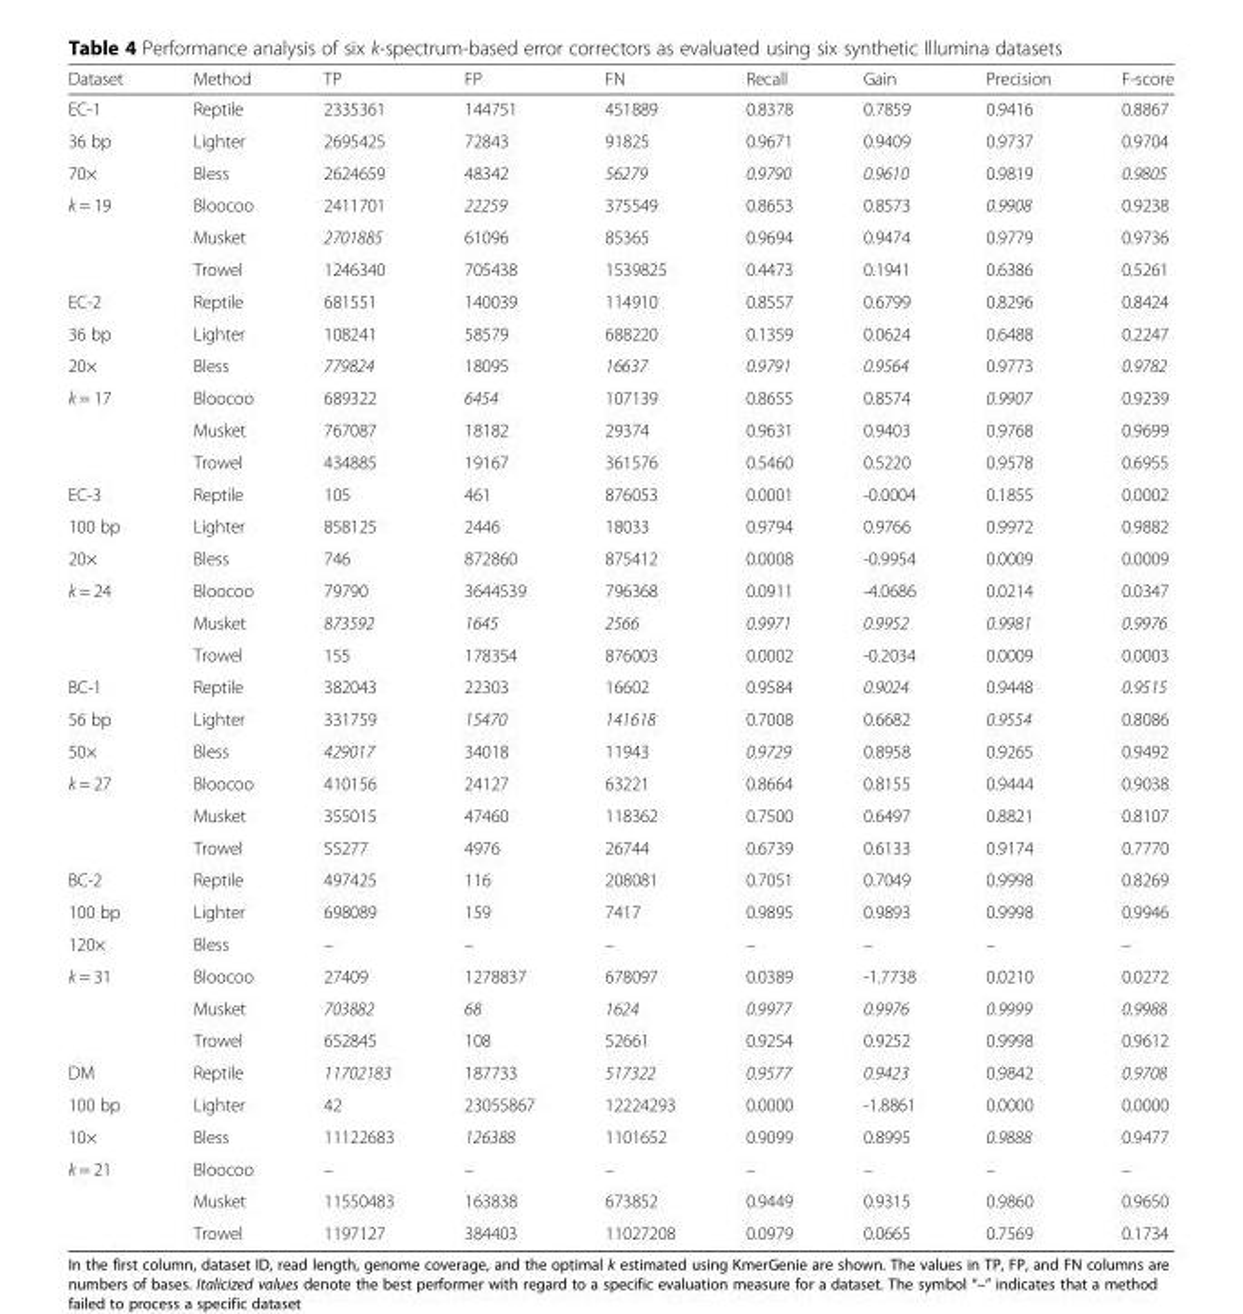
<table><thead><tr><td>Dataset</td><td>Method</td><td>TP</td><td>FP</td><td>FN</td><td>Recall</td><td>Gain</td><td>Precision</td><td>F-score</td></tr></thead><tbody><tr><td>EC-1</td><td>Reptile</td><td>2335361</td><td>144751</td><td>451889</td><td>0.8378</td><td>0.7859</td><td>0.9416</td><td>0.8867</td></tr><tr><td>36 bp</td><td>Lighter</td><td>2695425</td><td>72843</td><td>91825</td><td>0.9671</td><td>0.9409</td><td>0.9737</td><td>0.9704</td></tr><tr><td>70×</td><td>Bless</td><td>2624659</td><td>48342</td><td>56279</td><td>0.9790</td><td>0.9610</td><td>0.9819</td><td>0.9805</td></tr><tr><td rowspan="3">k = 19</td><td>Bloocoo</td><td>2411701</td><td>22259</td><td>375549</td><td>0.8653</td><td>0.8573</td><td>0.9908</td><td>0.9238</td></tr><tr><td>Musket</td><td>2701885</td><td>61096</td><td>85365</td><td>0.9694</td><td>0.9474</td><td>0.9779</td><td>0.9736</td></tr><tr><td>Trowel</td><td>1246340</td><td>705438</td><td>1539825</td><td>0.4473</td><td>0.1941</td><td>0.6386</td><td>0.5261</td></tr><tr><td>EC-2</td><td>Reptile</td><td>681551</td><td>140039</td><td>114910</td><td>0.8557</td><td>0.6799</td><td>0.8296</td><td>0.8424</td></tr><tr><td>36 bp</td><td>Lighter</td><td>108241</td><td>58579</td><td>688220</td><td>0.1359</td><td>0.0624</td><td>0.6488</td><td>0.2247</td></tr><tr><td>20×</td><td>Bless</td><td>779824</td><td>18095</td><td>16637</td><td>0.9791</td><td>0.9564</td><td>0.9773</td><td>0.9782</td></tr><tr><td rowspan="3">k = 17</td><td>Bloocoo</td><td>689322</td><td>6454</td><td>107139</td><td>0.8655</td><td>0.8574</td><td>0.9907</td><td>0.9239</td></tr><tr><td>Musket</td><td>767087</td><td>18182</td><td>29374</td><td>0.9631</td><td>0.9403</td><td>0.9768</td><td>0.9699</td></tr><tr><td>Trowel</td><td>434885</td><td>19167</td><td>361576</td><td>0.5460</td><td>0.5220</td><td>0.9578</td><td>0.6955</td></tr><tr><td>EC-3</td><td>Reptile</td><td>105</td><td>461</td><td>876053</td><td>0.0001</td><td>-0.0004</td><td>0.1855</td><td>0.0002</td></tr><tr><td>100 bp</td><td>Lighter</td><td>858125</td><td>2446</td><td>18033</td><td>0.9794</td><td>0.9766</td><td>0.9972</td><td>0.9882</td></tr><tr><td>20×</td><td>Bless</td><td>746</td><td>872860</td><td>875412</td><td>0.0008</td><td>-0.9954</td><td>0.0009</td><td>0.0009</td></tr><tr><td rowspan="3">k = 24</td><td>Bloocoo</td><td>79790</td><td>3644539</td><td>796368</td><td>0.0911</td><td>-4.0686</td><td>0.0214</td><td>0.0347</td></tr><tr><td>Musket</td><td>873592</td><td>1645</td><td>2566</td><td>0.9971</td><td>0.9952</td><td>0.9981</td><td>0.9976</td></tr><tr><td>Trowel</td><td>155</td><td>178354</td><td>876003</td><td>0.0002</td><td>-0.2034</td><td>0.0009</td><td>0.0003</td></tr><tr><td>BC-1</td><td>Reptile</td><td>382043</td><td>22303</td><td>16602</td><td>0.9584</td><td>0.9024</td><td>0.9448</td><td>0.9515</td></tr><tr><td>56 bp</td><td>Lighter</td><td>331759</td><td>15470</td><td>141618</td><td>0.7008</td><td>0.6682</td><td>0.9554</td><td>0.8086</td></tr><tr><td>50×</td><td>Bless</td><td>429017</td><td>34018</td><td>11943</td><td>0.9729</td><td>0.8958</td><td>0.9265</td><td>0.9492</td></tr><tr><td rowspan="3">k = 27</td><td>Bloocoo</td><td>410156</td><td>24127</td><td>63221</td><td>0.8664</td><td>0.8155</td><td>0.9444</td><td>0.9038</td></tr><tr><td>Musket</td><td>355015</td><td>47460</td><td>118362</td><td>0.7500</td><td>0.6497</td><td>0.8821</td><td>0.8107</td></tr><tr><td>Trowel</td><td>55277</td><td>4976</td><td>26744</td><td>0.6739</td><td>0.6133</td><td>0.9174</td><td>0.7770</td></tr><tr><td>BC-2</td><td>Reptile</td><td>497425</td><td>116</td><td>208081</td><td>0.7051</td><td>0.7049</td><td>0.9998</td><td>0.8269</td></tr><tr><td>100 bp</td><td>Lighter</td><td>698089</td><td>159</td><td>7417</td><td>0.9895</td><td>0.9893</td><td>0.9998</td><td>0.9946</td></tr><tr><td>120×</td><td>Bless</td><td>–</td><td>–</td><td>–</td><td>–</td><td>–</td><td>–</td><td>–</td></tr><tr><td rowspan="3">k = 31</td><td>Bloocoo</td><td>27409</td><td>1278837</td><td>678097</td><td>0.0389</td><td>-1.7738</td><td>0.0210</td><td>0.0272</td></tr><tr><td>Musket</td><td>703882</td><td>68</td><td>1624</td><td>0.9977</td><td>0.9976</td><td>0.9999</td><td>0.9988</td></tr><tr><td>Trowel</td><td>652845</td><td>108</td><td>52661</td><td>0.9254</td><td>0.9252</td><td>0.9998</td><td>0.9612</td></tr><tr><td>DM</td><td>Reptile</td><td>11702183</td><td>187733</td><td>517322</td><td>0.9577</td><td>0.9423</td><td>0.9842</td><td>0.9708</td></tr><tr><td>100 bp</td><td>Lighter</td><td>42</td><td>23055867</td><td>12224293</td><td>0.0000</td><td>-1.8861</td><td>0.0000</td><td>0.0000</td></tr><tr><td>10×</td><td>Bless</td><td>11122683</td><td>126388</td><td>1101652</td><td>0.9099</td><td>0.8995</td><td>0.9888</td><td>0.9477</td></tr><tr><td rowspan="3">k = 21</td><td>Bloocoo</td><td>–</td><td>–</td><td>–</td><td>–</td><td>–</td><td>–</td><td>–</td></tr><tr><td>Musket</td><td>11550483</td><td>163838</td><td>673852</td><td>0.9449</td><td>0.9315</td><td>0.9860</td><td>0.9650</td></tr><tr><td>Trowel</td><td>1197127</td><td>384403</td><td>11027208</td><td>0.0979</td><td>0.0665</td><td>0.7569</td><td>0.1734</td></tr></tbody></table>